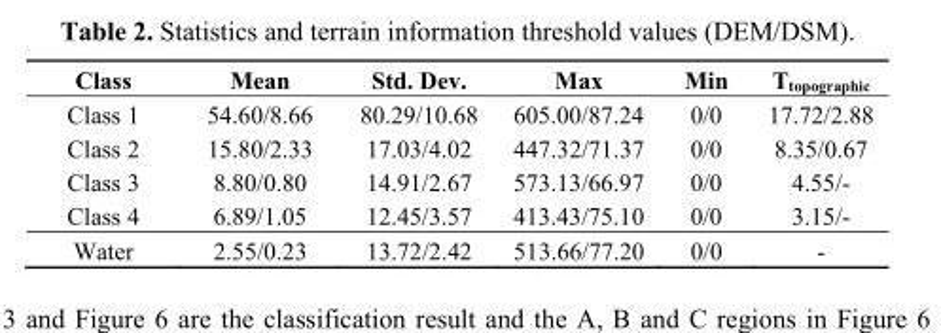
<table><thead><tr><td>Class</td><td>Mean</td><td>Std. Dev.</td><td>Max</td><td>Min</td><td>T<sub>topographic</sub></td></tr></thead><tbody><tr><td>Class 1</td><td>54.60/8.66</td><td>80.29/10.68</td><td>605.00/87.24</td><td>0/0</td><td>17.72/2.88</td></tr><tr><td>Class 2</td><td>15.80/2.33</td><td>17.03/4.02</td><td>447.32/71.37</td><td>0/0</td><td>8.35/0.67</td></tr><tr><td>Class 3</td><td>8.80/0.80</td><td>14.91/2.67</td><td>573.13/66.97</td><td>0/0</td><td>4.55/-</td></tr><tr><td>Class 4</td><td>6.89/1.05</td><td>12.45/3.57</td><td>413.43/75.10</td><td>0/0</td><td>3.15/-</td></tr><tr><td>Water</td><td>2.55/0.23</td><td>13.72/2.42</td><td>513.66/77.20</td><td>0/0</td><td>-</td></tr></tbody></table>